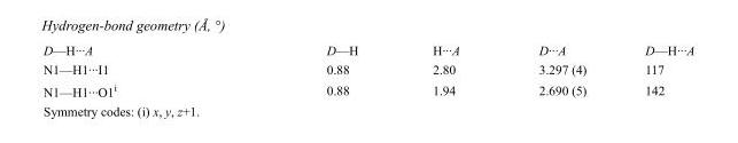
<table><tbody><tr><td>D—H···A</td><td>D—H</td><td>H···A</td><td>D···A</td><td>D—H···A</td></tr><tr><td>N1—H1···I1</td><td>0.88</td><td>2.80</td><td>3.297 (4)</td><td>117</td></tr><tr><td>N1—H1···O1<sup>i</sup></td><td>0.88</td><td>1.94</td><td>2.690 (5)</td><td>142</td></tr></tbody></table>